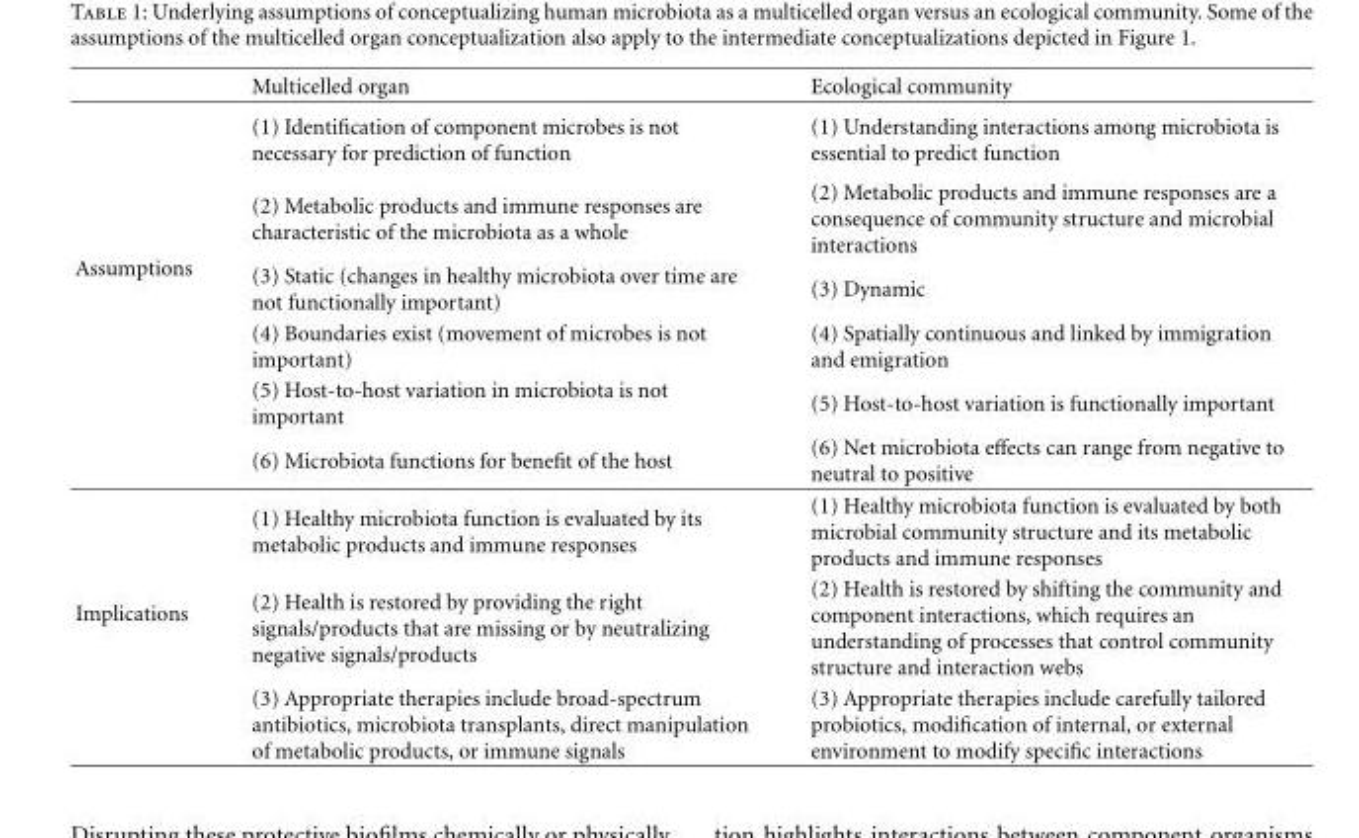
<table><thead><tr><td></td><td>Multicelled organ</td><td>Ecological community</td></tr></thead><tbody><tr><td rowspan="6">Assumptions</td><td>(1) Identification of component microbes is not necessary for prediction of function</td><td>(1) Understanding interactions among microbiota is essential to predict function</td></tr><tr><td>(2) Metabolic products and immune responses are characteristic of the microbiota as a whole</td><td>(2) Metabolic products and immune responses are a consequence of community structure and microbial interactions</td></tr><tr><td>(3) Static (changes in healthy microbiota over time are not functionally important)</td><td>(3) Dynamic</td></tr><tr><td>(4) Boundaries exist (movement of microbes is not important)</td><td>(4) Spatially continuous and linked by immigration and emigration</td></tr><tr><td>(5) Host-to-host variation in microbiota is not important</td><td>(5) Host-to-host variation is functionally important</td></tr><tr><td>(6) Microbiota functions for benefit of the host</td><td>(6) Net microbiota effects can range from negative to neutral to positive</td></tr><tr><td rowspan="3">Implications</td><td>(1) Healthy microbiota function is evaluated by its metabolic products and immune responses</td><td>(1) Healthy microbiota function is evaluated by both microbial community structure and its metabolic products and immune responses</td></tr><tr><td>(2) Health is restored by providing the right signals/products that are missing or by neutralizing negative signals/products</td><td>(2) Health is restored by shifting the community and component interactions, which requires an understanding of processes that control community structure and interaction webs</td></tr><tr><td>(3) Appropriate therapies include broad-spectrum antibiotics, microbiota transplants, direct manipulation of metabolic products, or immune signals</td><td>(3) Appropriate therapies include carefully tailored probiotics, modification of internal, or external environment to modify specific interactions</td></tr></tbody></table>